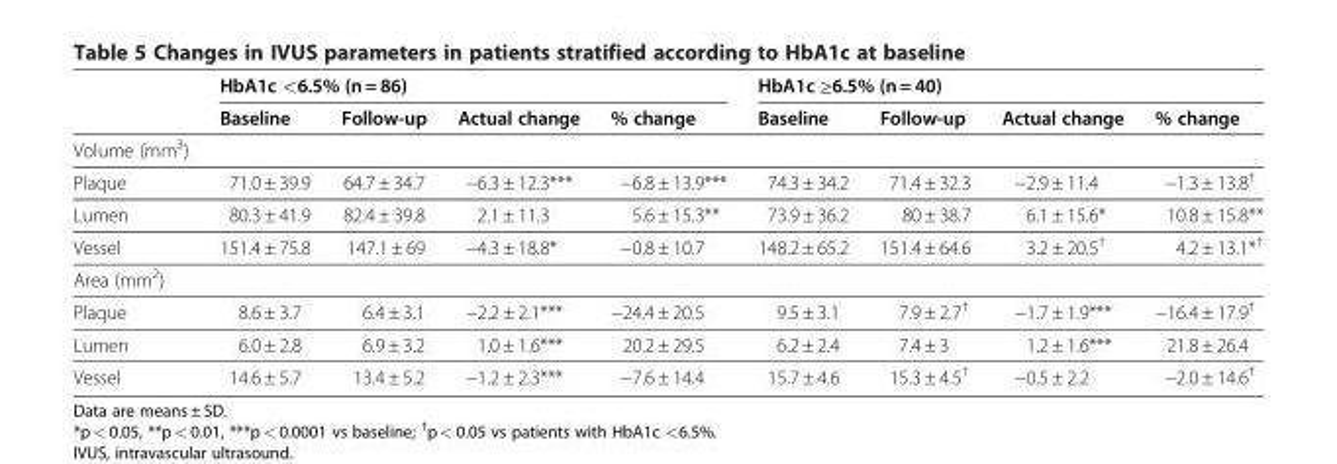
<table><thead><tr><td rowspan="2"></td><td colspan="4">HbA1c &lt;6.5% (n = 86)</td><td colspan="4">HbA1c ≥6.5% (n = 40)</td></tr><tr><td>Baseline</td><td>Follow-up</td><td>Actual change</td><td>% change</td><td>Baseline</td><td>Follow-up</td><td>Actual change</td><td>% change</td></tr></thead><tbody><tr><td colspan="9">Volume (mm<sup>3</sup>)</td></tr><tr><td>Plaque</td><td>71.0 ± 39.9</td><td>64.7 ± 34.7</td><td>−6.3 ± 12.3***</td><td>−6.8 ± 13.9***</td><td>74.3 ± 34.2</td><td>71.4 ± 32.3</td><td>−2.9 ± 11.4</td><td>−1.3 ± 13.8<sup>†</sup></td></tr><tr><td>Lumen</td><td>80.3 ± 41.9</td><td>82.4 ± 39.8</td><td>2.1 ± 11.3</td><td>5.6 ± 15.3**</td><td>73.9 ± 36.2</td><td>80 ± 38.7</td><td>6.1 ± 15.6*</td><td>10.8 ± 15.8**</td></tr><tr><td>Vessel</td><td>151.4 ± 75.8</td><td>147.1 ± 69</td><td>−4.3 ± 18.8*</td><td>−0.8 ± 10.7</td><td>148.2 ± 65.2</td><td>151.4 ± 64.6</td><td>3.2 ± 20.5<sup>†</sup></td><td>4.2 ± 13.1*<sup>†</sup></td></tr><tr><td colspan="9">Area (mm<sup>2</sup>)</td></tr><tr><td>Plaque</td><td>8.6 ± 3.7</td><td>6.4 ± 3.1</td><td>−2.2 ± 2.1***</td><td>−24.4 ± 20.5</td><td>9.5 ± 3.1</td><td>7.9 ± 2.7<sup>†</sup></td><td>−1.7 ± 1.9***</td><td>−16.4 ± 17.9<sup>†</sup></td></tr><tr><td>Lumen</td><td>6.0 ± 2.8</td><td>6.9 ± 3.2</td><td>1.0 ± 1.6***</td><td>20.2 ± 29.5</td><td>6.2 ± 2.4</td><td>7.4 ± 3</td><td>1.2 ± 1.6***</td><td>21.8 ± 26.4</td></tr><tr><td>Vessel</td><td>14.6 ± 5.7</td><td>13.4 ± 5.2</td><td>−1.2 ± 2.3***</td><td>−7.6 ± 14.4</td><td>15.7 ± 4.6</td><td>15.3 ± 4.5<sup>†</sup></td><td>−0.5 ± 2.2</td><td>−2.0 ± 14.6<sup>†</sup></td></tr></tbody></table>